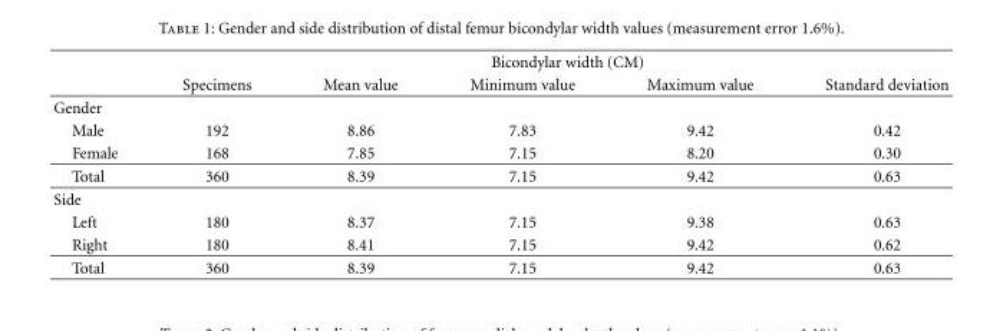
<table><thead><tr><td rowspan="2"></td><td colspan="5">Bicondylar width (CM)</td></tr><tr><td>Specimens</td><td>Mean value</td><td>Minimum value</td><td>Maximum value</td><td>Standard deviation</td></tr></thead><tbody><tr><td colspan="6">Gender</td></tr><tr><td>Male</td><td>192</td><td>8.86</td><td>7.83</td><td>9.42</td><td>0.42</td></tr><tr><td>Female</td><td>168</td><td>7.85</td><td>7.15</td><td>8.20</td><td>0.30</td></tr><tr><td>Total</td><td>360</td><td>8.39</td><td>7.15</td><td>9.42</td><td>0.63</td></tr><tr><td colspan="6">Side</td></tr><tr><td>Left</td><td>180</td><td>8.37</td><td>7.15</td><td>9.38</td><td>0.63</td></tr><tr><td>Right</td><td>180</td><td>8.41</td><td>7.15</td><td>9.42</td><td>0.62</td></tr><tr><td>Total</td><td>360</td><td>8.39</td><td>7.15</td><td>9.42</td><td>0.63</td></tr></tbody></table>